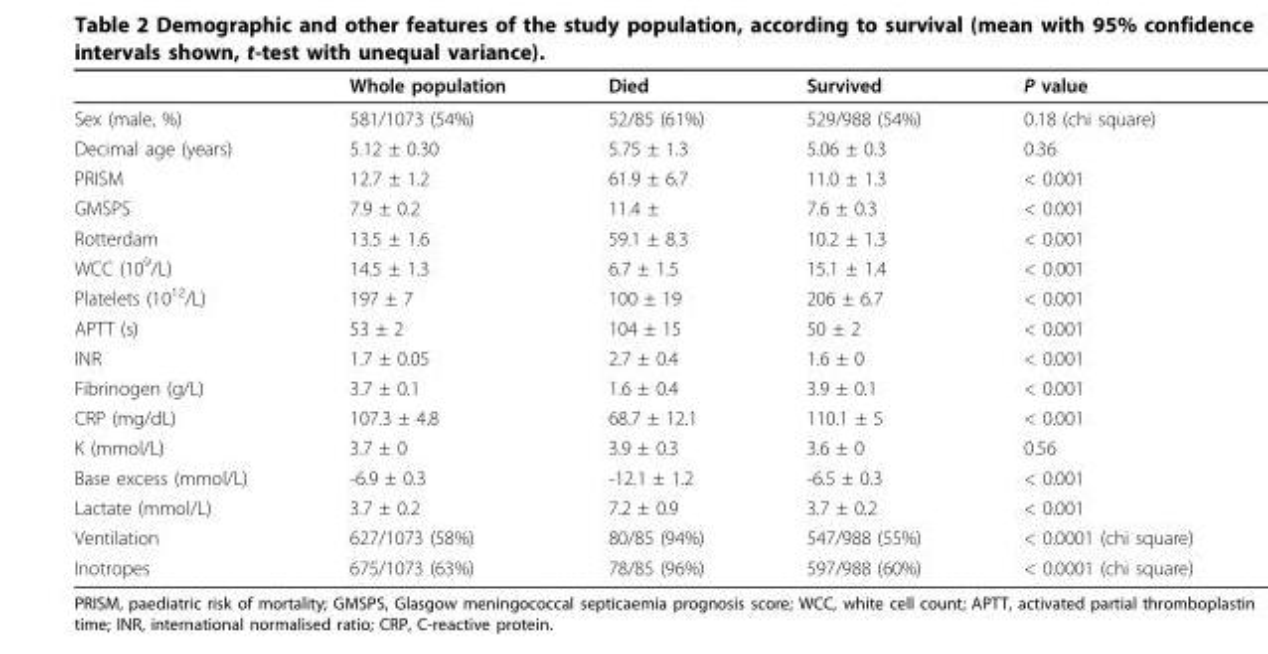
<table><thead><tr><td></td><td>Whole population</td><td>Died</td><td>Survived</td><td>P value</td></tr></thead><tbody><tr><td>Sex (male, %)</td><td>581/1073 (54%)</td><td>52/85 (61%)</td><td>529/988 (54%)</td><td>0.18 (chi square)</td></tr><tr><td>Decimal age (years)</td><td>5.12 ± 0.30</td><td>5.75 ± 1.3</td><td>5.06 ± 0.3</td><td>0.36</td></tr><tr><td>PRISM</td><td>12.7 ± 1.2</td><td>61.9 ± 6.7</td><td>11.0 ± 1.3</td><td>&lt; 0.001</td></tr><tr><td>GMSPS</td><td>7.9 ± 0.2</td><td>11.4 ±</td><td>7.6 ± 0.3</td><td>&lt; 0.001</td></tr><tr><td>Rotterdam</td><td>13.5 ± 1.6</td><td>59.1 ± 8.3</td><td>10.2 ± 1.3</td><td>&lt; 0.001</td></tr><tr><td>WCC (10<sup>9</sup>/L)</td><td>14.5 ± 1.3</td><td>6.7 ± 1.5</td><td>15.1 ± 1.4</td><td>&lt; 0.001</td></tr><tr><td>Platelets (10<sup>12</sup>/L)</td><td>197 ± 7</td><td>100 ± 19</td><td>206 ± 6.7</td><td>&lt; 0.001</td></tr><tr><td>APTT (s)</td><td>53 ± 2</td><td>104 ± 15</td><td>50 ± 2</td><td>&lt; 0.001</td></tr><tr><td>INR</td><td>1.7 ± 0.05</td><td>2.7 ± 0.4</td><td>1.6 ± 0</td><td>&lt; 0.001</td></tr><tr><td>Fibrinogen (g/L)</td><td>3.7 ± 0.1</td><td>1.6 ± 0.4</td><td>3.9 ± 0.1</td><td>&lt; 0.001</td></tr><tr><td>CRP (mg/dL)</td><td>107.3 ± 4.8</td><td>68.7 ± 12.1</td><td>110.1 ± 5</td><td>&lt; 0.001</td></tr><tr><td>K (mmol/L)</td><td>3.7 ± 0</td><td>3.9 ± 0.3</td><td>3.6 ± 0</td><td>0.56</td></tr><tr><td>Base excess (mmol/L)</td><td>-6.9 ± 0.3</td><td>-12.1 ± 1.2</td><td>-6.5 ± 0.3</td><td>&lt; 0.001</td></tr><tr><td>Lactate (mmol/L)</td><td>3.7 ± 0.2</td><td>7.2 ± 0.9</td><td>3.7 ± 0.2</td><td>&lt; 0.001</td></tr><tr><td>Ventilation</td><td>627/1073 (58%)</td><td>80/85 (94%)</td><td>547/988 (55%)</td><td>&lt; 0.0001 (chi square)</td></tr><tr><td>Inotropes</td><td>675/1073 (63%)</td><td>78/85 (96%)</td><td>597/988 (60%)</td><td>&lt; 0.0001 (chi square)</td></tr></tbody></table>